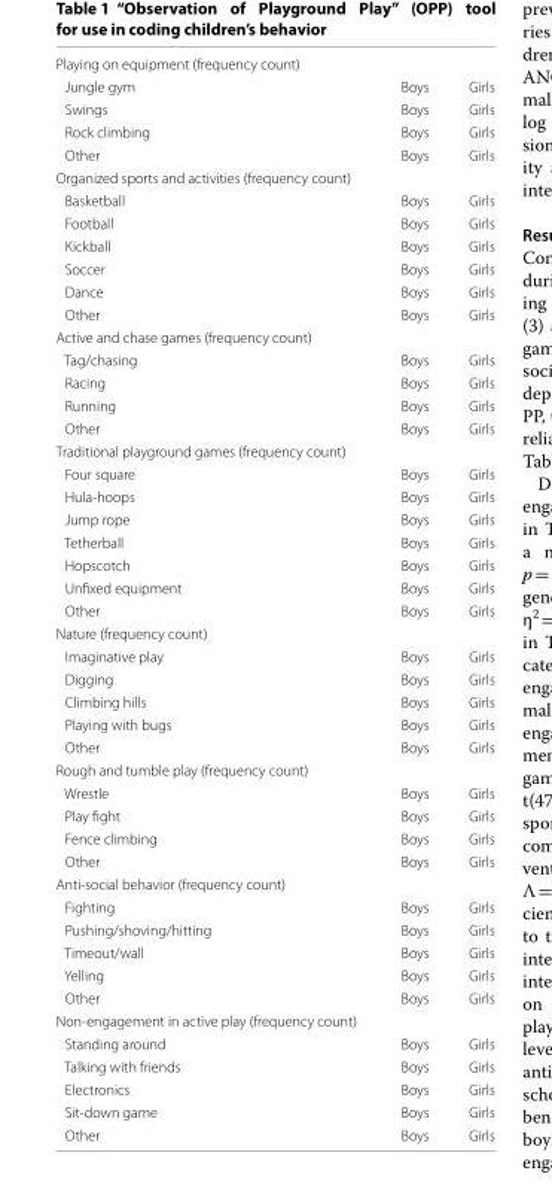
<table><tbody><tr><td colspan="3">Playing on equipment (frequency count)</td></tr><tr><td>Jungle gym</td><td>Boys</td><td>Girls</td></tr><tr><td>Swings</td><td>Boys</td><td>Girls</td></tr><tr><td>Rock climbing</td><td>Boys</td><td>Girls</td></tr><tr><td>Other</td><td>Boys</td><td>Girls</td></tr><tr><td colspan="3">Organized sports and activities (frequency count)</td></tr><tr><td>Basketball</td><td>Boys</td><td>Girls</td></tr><tr><td>Football</td><td>Boys</td><td>Girls</td></tr><tr><td>Kickball</td><td>Boys</td><td>Girls</td></tr><tr><td>Soccer</td><td>Boys</td><td>Girls</td></tr><tr><td>Dance</td><td>Boys</td><td>Girls</td></tr><tr><td>Other</td><td>Boys</td><td>Girls</td></tr><tr><td colspan="3">Active and chase games (frequency count)</td></tr><tr><td>Tag/chasing</td><td>Boys</td><td>Girls</td></tr><tr><td>Racing</td><td>Boys</td><td>Girls</td></tr><tr><td>Running</td><td>Boys</td><td>Girls</td></tr><tr><td>Other</td><td>Boys</td><td>Girls</td></tr><tr><td colspan="3">Traditional playground games (frequency count)</td></tr><tr><td>Four square</td><td>Boys</td><td>Girls</td></tr><tr><td>Hula-hoops</td><td>Boys</td><td>Girls</td></tr><tr><td>Jump rope</td><td>Boys</td><td>Girls</td></tr><tr><td>Tetherball</td><td>Boys</td><td>Girls</td></tr><tr><td>Hopscotch</td><td>Boys</td><td>Girls</td></tr><tr><td>Unfixed equipment</td><td>Boys</td><td>Girls</td></tr><tr><td>Other</td><td>Boys</td><td>Girls</td></tr><tr><td colspan="3">Nature (frequency count)</td></tr><tr><td>Imaginative play</td><td>Boys</td><td>Girls</td></tr><tr><td>Digging</td><td>Boys</td><td>Girls</td></tr><tr><td>Climbing hills</td><td>Boys</td><td>Girls</td></tr><tr><td>Playing with bugs</td><td>Boys</td><td>Girls</td></tr><tr><td>Other</td><td>Boys</td><td>Girls</td></tr><tr><td colspan="3">Rough and tumble play (frequency count)</td></tr><tr><td>Wrestle</td><td>Boys</td><td>Girls</td></tr><tr><td>Play fight</td><td>Boys</td><td>Girls</td></tr><tr><td>Fence climbing</td><td>Boys</td><td>Girls</td></tr><tr><td>Other</td><td>Boys</td><td>Girls</td></tr><tr><td colspan="3">Anti-social behavior (frequency count)</td></tr><tr><td>Fighting</td><td>Boys</td><td>Girls</td></tr><tr><td>Pushing/shoving/hitting</td><td>Boys</td><td>Girls</td></tr><tr><td>Timeout/wall</td><td>Boys</td><td>Girls</td></tr><tr><td>Yelling</td><td>Boys</td><td>Girls</td></tr><tr><td>Other</td><td>Boys</td><td>Girls</td></tr><tr><td colspan="3">Non-engagement in active play (frequency count)</td></tr><tr><td>Standing around</td><td>Boys</td><td>Girls</td></tr><tr><td>Talking with friends</td><td>Boys</td><td>Girls</td></tr><tr><td>Electronics</td><td>Boys</td><td>Girls</td></tr><tr><td>Sit-down game</td><td>Boys</td><td>Girls</td></tr><tr><td>Other</td><td>Boys</td><td>Girls</td></tr></tbody></table>